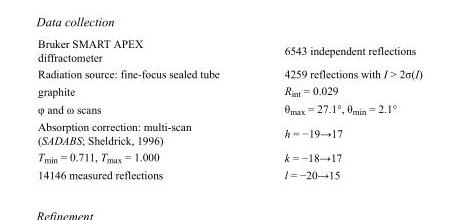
<table><tbody><tr><td>Bruker SMART APEX diffractometer</td><td>6543 independent reflections</td></tr><tr><td>Radiation source: fine-focus sealed tube</td><td>4259 reflections with I &gt; 2σ(I)</td></tr><tr><td>graphite</td><td>R<sub>int</sub> = 0.029</td></tr><tr><td>φ and ω scans</td><td>θ<sub>max</sub> = 27.1°, θ<sub>min</sub> = 2.1°</td></tr><tr><td>Absorption correction: multi-scan (SADABS; Sheldrick, 1996)</td><td>h = −19→17</td></tr><tr><td>T<sub>min</sub> = 0.711, T<sub>max</sub> = 1.000</td><td>k = −18→17</td></tr><tr><td>14146 measured reflections</td><td>l = −20→15</td></tr></tbody></table>